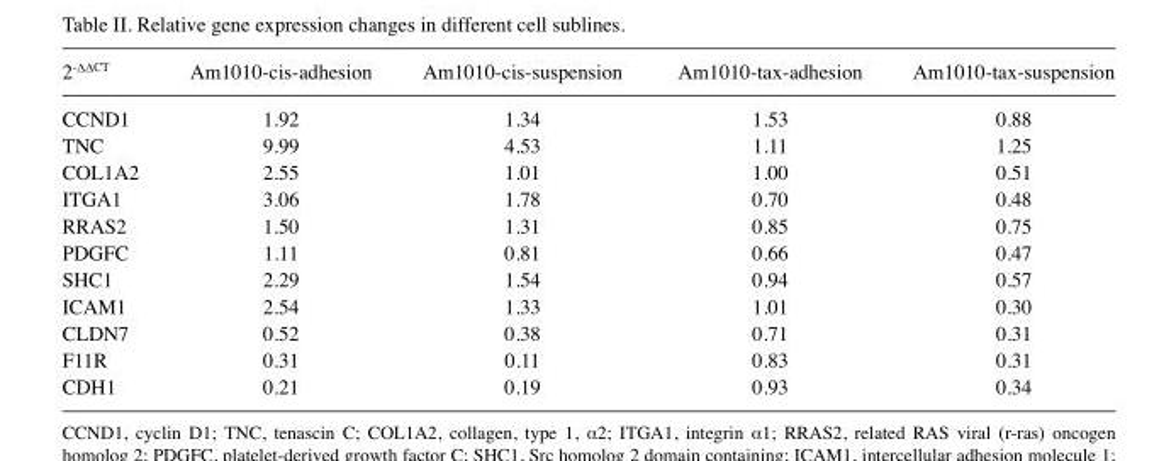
<table><thead><tr><td>2<sup>-ΔΔCT</sup></td><td>Am1010-cis-adhesion</td><td>Am1010-cis-suspension</td><td>Am1010-tax-adhesion</td><td>Am1010-tax-suspension</td></tr></thead><tbody><tr><td>CCND1</td><td>1.92</td><td>1.34</td><td>1.53</td><td>0.88</td></tr><tr><td>TNC</td><td>9.99</td><td>4.53</td><td>1.11</td><td>1.25</td></tr><tr><td>COL1A2</td><td>2.55</td><td>1.01</td><td>1.00</td><td>0.51</td></tr><tr><td>ITGA1</td><td>3.06</td><td>1.78</td><td>0.70</td><td>0.48</td></tr><tr><td>RRAS2</td><td>1.50</td><td>1.31</td><td>0.85</td><td>0.75</td></tr><tr><td>PDGFC</td><td>1.11</td><td>0.81</td><td>0.66</td><td>0.47</td></tr><tr><td>SHC1</td><td>2.29</td><td>1.54</td><td>0.94</td><td>0.57</td></tr><tr><td>ICAM1</td><td>2.54</td><td>1.33</td><td>1.01</td><td>0.30</td></tr><tr><td>CLDN7</td><td>0.52</td><td>0.38</td><td>0.71</td><td>0.31</td></tr><tr><td>F11R</td><td>0.31</td><td>0.11</td><td>0.83</td><td>0.31</td></tr><tr><td>CDH1</td><td>0.21</td><td>0.19</td><td>0.93</td><td>0.34</td></tr></tbody></table>